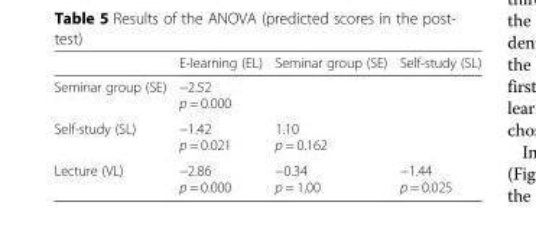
<table><thead><tr><td></td><td>E-learning (EL)</td><td>Seminar group (SE)</td><td>Self-study (SL)</td></tr></thead><tbody><tr><td>Seminar group (SE)</td><td>−2.52 p = 0.000</td><td></td><td></td></tr><tr><td>Self-study (SL)</td><td>−1.42 p = 0.021</td><td>1.10 p = 0.162</td><td></td></tr><tr><td>Lecture (VL)</td><td>−2.86 p = 0.000</td><td>−0.34 p = 1.00</td><td>−1.44 p = 0.025</td></tr></tbody></table>